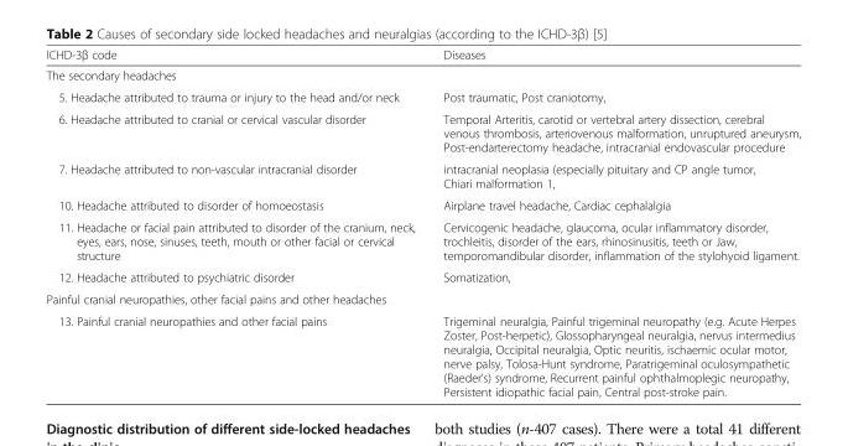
<table><thead><tr><td>ICHD-3β code</td><td>Diseases</td></tr></thead><tbody><tr><td colspan="2">The secondary headaches</td></tr><tr><td>5. Headache attributed to trauma or injury to the head and/or neck</td><td>Post traumatic, Post craniotomy,</td></tr><tr><td>6. Headache attributed to cranial or cervical vascular disorder</td><td>Temporal Arteritis, carotid or vertebral artery dissection, cerebral venous thrombosis, arteriovenous malformation, unruptured aneurysm, Post-endarterectomy headache, intracranial endovascular procedure</td></tr><tr><td>7. Headache attributed to non-vascular intracranial disorder</td><td>intracranial neoplasia (especially pituitary and CP angle tumor, Chiari malformation 1,</td></tr><tr><td>10. Headache attributed to disorder of homoeostasis</td><td>Airplane travel headache, Cardiac cephalalgia</td></tr><tr><td>11. Headache or facial pain attributed to disorder of the cranium, neck, eyes, ears, nose, sinuses, teeth, mouth or other facial or cervical structure</td><td>Cervicogenic headache, glaucoma, ocular inflammatory disorder, trochleitis, disorder of the ears, rhinosinusitis, teeth or Jaw, temporomandibular disorder, inflammation of the stylohyoid ligament.</td></tr><tr><td>12. Headache attributed to psychiatric disorder</td><td>Somatization,</td></tr><tr><td colspan="2">Painful cranial neuropathies, other facial pains and other headaches</td></tr><tr><td>13. Painful cranial neuropathies and other facial pains</td><td>Trigeminal neuralgia, Painful trigeminal neuropathy (e.g. Acute Herpes Zoster, Post-herpetic), Glossopharyngeal neuralgia, nervus intermedius neuralgia, Occipital neuralgia, Optic neuritis, ischaemic ocular motor, nerve palsy, Tolosa-Hunt syndrome, Paratrigeminal oculosympathetic (Raeder’s) syndrome, Recurrent painful ophthalmoplegic neuropathy, Persistent idiopathic facial pain, Central post-stroke pain.</td></tr></tbody></table>